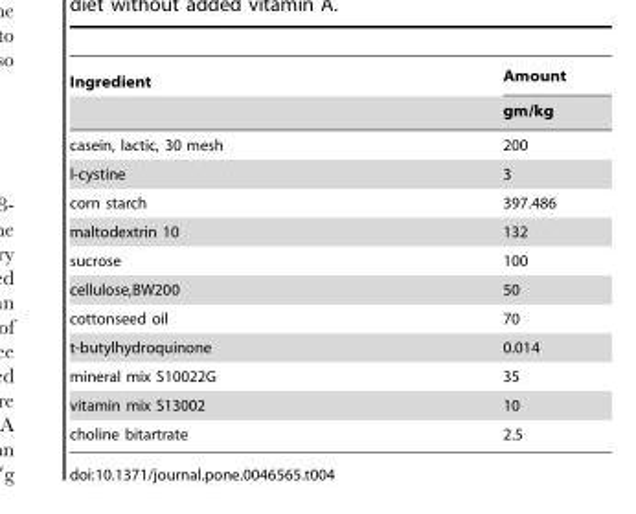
<table><thead><tr><td rowspan="2">Ingredient</td><td rowspan="2">Amount gm/kg</td></tr><tr></tr></thead><tbody><tr><td>casein, lactic, 30 mesh</td><td>200</td></tr><tr><td>l-cystine</td><td>3</td></tr><tr><td>corn starch</td><td>397.486</td></tr><tr><td>maltodextrin 10</td><td>132</td></tr><tr><td>sucrose</td><td>100</td></tr><tr><td>cellulose,BW200</td><td>50</td></tr><tr><td>cottonseed oil</td><td>70</td></tr><tr><td>t-butylhydroquinone</td><td>0.014</td></tr><tr><td>mineral mix S10022G</td><td>35</td></tr><tr><td>vitamin mix S13002</td><td>10</td></tr><tr><td>choline bitartrate</td><td>2.5</td></tr></tbody></table>